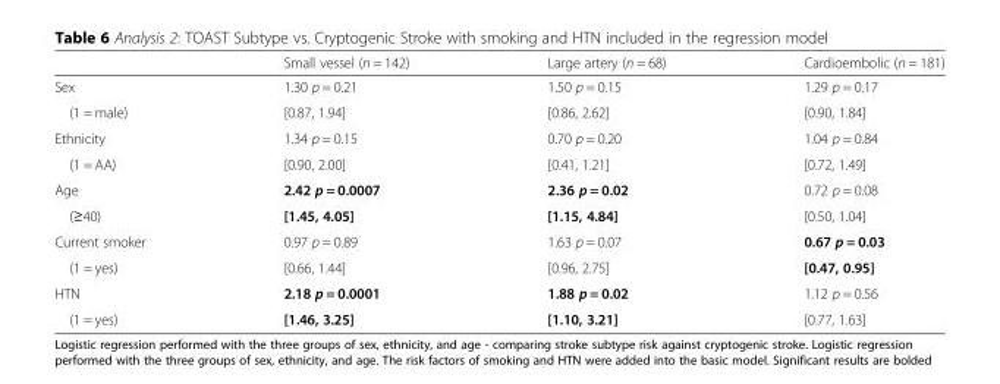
<table><thead><tr><td></td><td>Small vessel (n = 142)</td><td>Large artery (n = 68)</td><td>Cardioembolic (n = 181)</td></tr></thead><tbody><tr><td>Sex</td><td>1.30 p = 0.21</td><td>1.50 p = 0.15</td><td>1.29 p = 0.17</td></tr><tr><td>(1 = male)</td><td>[0.87, 1.94]</td><td>[0.86, 2.62]</td><td>[0.90, 1.84]</td></tr><tr><td>Ethnicity</td><td>1.34 p = 0.15</td><td>0.70 p = 0.20</td><td>1.04 p = 0.84</td></tr><tr><td>(1 = AA)</td><td>[0.90, 2.00]</td><td>[0.41, 1.21]</td><td>[0.72, 1.49]</td></tr><tr><td>Age</td><td>2.42 p = 0.0007</td><td>2.36 p = 0.02</td><td>0.72 p = 0.08</td></tr><tr><td>(≥40)</td><td>[1.45, 4.05]</td><td>[1.15, 4.84]</td><td>[0.50, 1.04]</td></tr><tr><td>Current smoker</td><td>0.97 p = 0.89</td><td>1.63 p = 0.07</td><td>0.67 p = 0.03</td></tr><tr><td>(1 = yes)</td><td>[0.66, 1.44]</td><td>[0.96, 2.75]</td><td>[0.47, 0.95]</td></tr><tr><td>HTN</td><td>2.18 p = 0.0001</td><td>1.88 p = 0.02</td><td>1.12 p = 0.56</td></tr><tr><td>(1 = yes)</td><td>[1.46, 3.25]</td><td>[1.10, 3.21]</td><td>[0.77, 1.63]</td></tr></tbody></table>